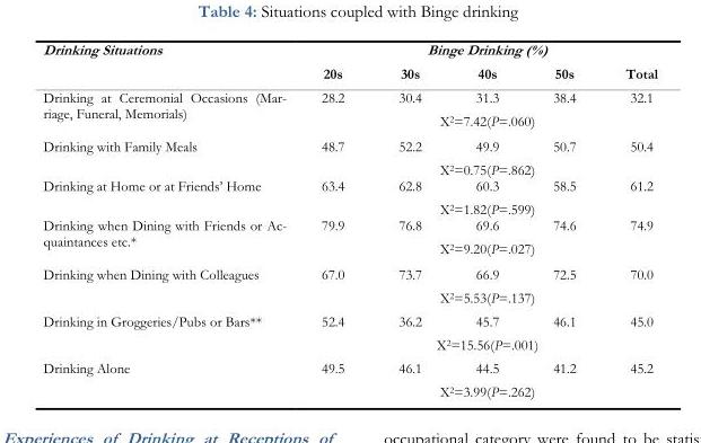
<table><thead><tr><td rowspan="2">Drinking Situations</td><td colspan="5">Binge Drinking (%)</td></tr><tr><td>20s</td><td>30s</td><td>40s</td><td>50s</td><td>Total</td></tr></thead><tbody><tr><td rowspan="2">Drinking at Ceremonial Occasions (Mar- riage, Funeral, Memorials)</td><td>28.2</td><td>30.4</td><td>31.3</td><td>38.4</td><td>32.1</td></tr><tr><td colspan="5">X<sup>2</sup>=7.42(P=.060)</td></tr><tr><td rowspan="2">Drinking with Family Meals</td><td>48.7</td><td>52.2</td><td>49.9</td><td>50.7</td><td>50.4</td></tr><tr><td colspan="5">X<sup>2</sup>=0.75(P=.862)</td></tr><tr><td rowspan="2">Drinking at Home or at Friends’ Home</td><td>63.4</td><td>62.8</td><td>60.3</td><td>58.5</td><td>61.2</td></tr><tr><td colspan="5">X<sup>2</sup>=1.82(P=.599)</td></tr><tr><td rowspan="2">Drinking when Dining with Friends or Ac- quaintances etc.*</td><td>79.9</td><td>76.8</td><td>69.6</td><td>74.6</td><td>74.9</td></tr><tr><td colspan="5">X<sup>2</sup>=9.20(P=.027)</td></tr><tr><td rowspan="2">Drinking when Dining with Colleagues</td><td>67.0</td><td>73.7</td><td>66.9</td><td>72.5</td><td>70.0</td></tr><tr><td colspan="5">X<sup>2</sup>=5.53(P=.137)</td></tr><tr><td rowspan="2">Drinking in Groggeries/Pubs or Bars**</td><td>52.4</td><td>36.2</td><td>45.7</td><td>46.1</td><td>45.0</td></tr><tr><td colspan="5">X<sup>2</sup>=15.56(P=.001)</td></tr><tr><td rowspan="2">Drinking Alone</td><td>49.5</td><td>46.1</td><td>44.5</td><td>41.2</td><td>45.2</td></tr><tr><td colspan="5">X<sup>2</sup>=3.99(P=.262)</td></tr></tbody></table>